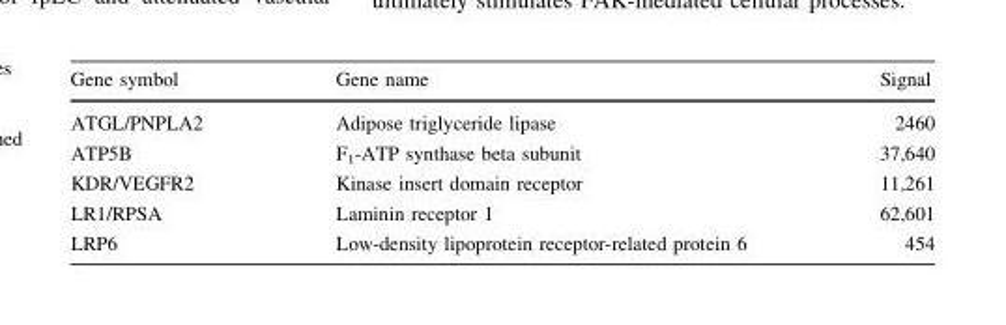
<table><thead><tr><td>Gene symbol</td><td>Gene name</td><td>Signal</td></tr></thead><tbody><tr><td>ATGL/PNPLA2</td><td>Adipose triglyceride lipase</td><td>2460</td></tr><tr><td>ATP5B</td><td>F<sub>1</sub>-ATP synthase beta subunit</td><td>37,640</td></tr><tr><td>KDR/VEGFR2</td><td>Kinase insert domain receptor</td><td>11,261</td></tr><tr><td>LR1/RPSA</td><td>Laminin receptor 1</td><td>62,601</td></tr><tr><td>LRP6</td><td>Low-density lipoprotein receptor-related protein 6</td><td>454</td></tr></tbody></table>